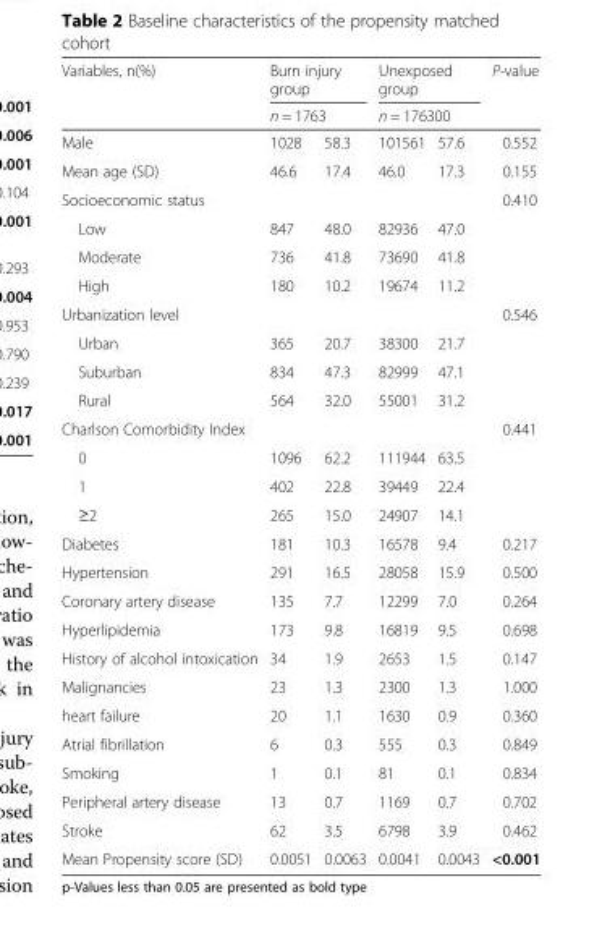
<table><thead><tr><td rowspan="3">Variables, n(%) Male</td><td rowspan="2" colspan="2">Burn injury group n = 1763</td><td rowspan="2" colspan="2">Unexposed group n = 176300</td><td rowspan="3">P-value 0.552</td></tr><tr></tr><tr><td>1028</td><td>58.3</td><td>101561</td><td>57.6</td></tr></thead><tbody><tr><td>Mean age (SD)</td><td>46.6</td><td>17.4</td><td>46.0</td><td>17.3</td><td>0.155</td></tr><tr><td>Socioeconomic status</td><td></td><td></td><td></td><td></td><td>0.410</td></tr><tr><td>Low</td><td>847</td><td>48.0</td><td>82936</td><td>47.0</td><td></td></tr><tr><td>Moderate</td><td>736</td><td>41.8</td><td>73690</td><td>41.8</td><td></td></tr><tr><td>High</td><td>180</td><td>10.2</td><td>19674</td><td>11.2</td><td></td></tr><tr><td>Urbanization level</td><td></td><td></td><td></td><td></td><td>0.546</td></tr><tr><td>Urban</td><td>365</td><td>20.7</td><td>38300</td><td>21.7</td><td></td></tr><tr><td>Suburban</td><td>834</td><td>47.3</td><td>82999</td><td>47.1</td><td></td></tr><tr><td>Rural</td><td>564</td><td>32.0</td><td>55001</td><td>31.2</td><td></td></tr><tr><td>Charlson Comorbidity Index</td><td></td><td></td><td></td><td></td><td>0.441</td></tr><tr><td>0</td><td>1096</td><td>62.2</td><td>111944</td><td>63.5</td><td></td></tr><tr><td>1</td><td>402</td><td>22.8</td><td>39449</td><td>22.4</td><td></td></tr><tr><td>≥2</td><td>265</td><td>15.0</td><td>24907</td><td>14.1</td><td></td></tr><tr><td>Diabetes</td><td>181</td><td>10.3</td><td>16578</td><td>9.4</td><td>0.217</td></tr><tr><td>Hypertension</td><td>291</td><td>16.5</td><td>28058</td><td>15.9</td><td>0.500</td></tr><tr><td>Coronary artery disease</td><td>135</td><td>7.7</td><td>12299</td><td>7.0</td><td>0.264</td></tr><tr><td>Hyperlipidemia</td><td>173</td><td>9.8</td><td>16819</td><td>9.5</td><td>0.698</td></tr><tr><td>History of alcohol intoxication</td><td>34</td><td>1.9</td><td>2653</td><td>1.5</td><td>0.147</td></tr><tr><td>Malignancies</td><td>23</td><td>1.3</td><td>2300</td><td>1.3</td><td>1.000</td></tr><tr><td>heart failure</td><td>20</td><td>1.1</td><td>1630</td><td>0.9</td><td>0.360</td></tr><tr><td>Atrial fibrillation</td><td>6</td><td>0.3</td><td>555</td><td>0.3</td><td>0.849</td></tr><tr><td>Smoking</td><td>1</td><td>0.1</td><td>81</td><td>0.1</td><td>0.834</td></tr><tr><td>Peripheral artery disease</td><td>13</td><td>0.7</td><td>1169</td><td>0.7</td><td>0.702</td></tr><tr><td>Stroke</td><td>62</td><td>3.5</td><td>6798</td><td>3.9</td><td>0.462</td></tr><tr><td>Mean Propensity score (SD)</td><td>0.0051</td><td>0.0063</td><td>0.0041</td><td>0.0043</td><td>&lt;0.001</td></tr></tbody></table>